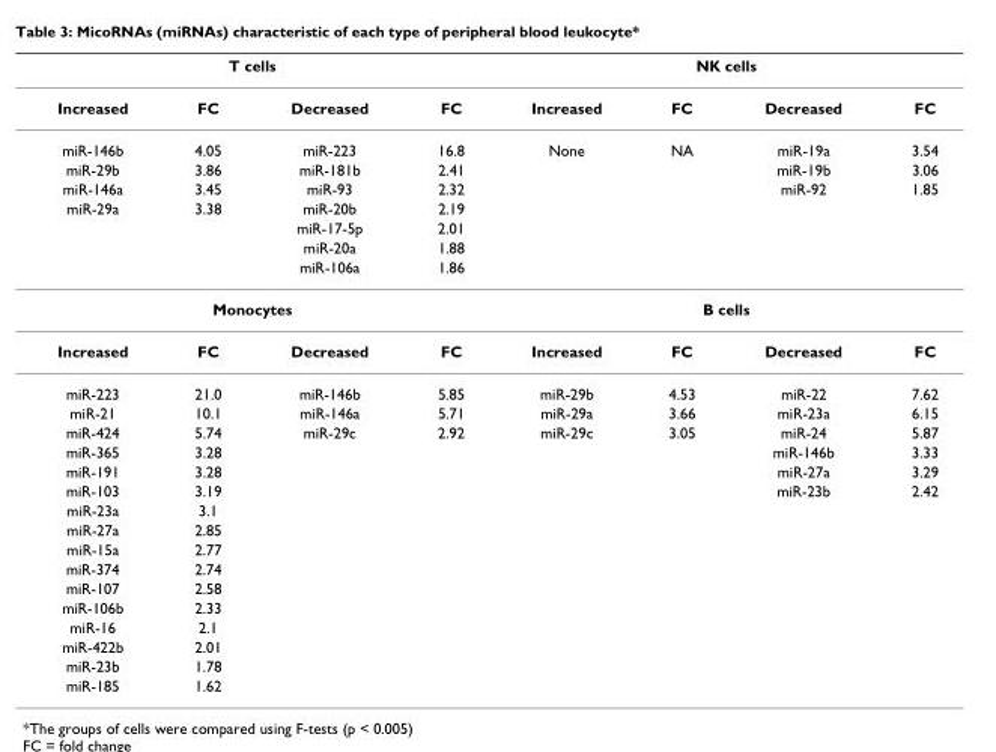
<table><thead><tr><td colspan="4">T cells</td><td colspan="4">NK cells</td></tr><tr><td>Increased</td><td>FC</td><td>Decreased</td><td>FC</td><td>Increased</td><td>FC</td><td>Decreased</td><td>FC</td></tr></thead><tbody><tr><td>miR-146b</td><td>4.05</td><td>miR-223</td><td>16.8</td><td>None</td><td>NA</td><td>miR-19a</td><td>3.54</td></tr><tr><td>miR-29b</td><td>3.86</td><td>miR-181b</td><td>2.41</td><td></td><td></td><td>miR-19b</td><td>3.06</td></tr><tr><td>miR-146a</td><td>3.45</td><td>miR-93</td><td>2.32</td><td></td><td></td><td>miR-92</td><td>1.85</td></tr><tr><td rowspan="4">miR-29a</td><td>3.38</td><td>miR-20b</td><td>2.19</td><td></td><td></td><td></td><td></td></tr><tr><td></td><td>miR-17-5p</td><td>2.01</td><td></td><td></td><td></td><td></td></tr><tr><td></td><td>miR-20a</td><td>1.88</td><td></td><td></td><td></td><td></td></tr><tr><td></td><td>miR-106a</td><td>1.86</td><td></td><td></td><td></td><td></td></tr><tr><td colspan="4">Monocytes</td><td colspan="4">B cells</td></tr><tr><td>Increased</td><td>FC</td><td>Decreased</td><td>FC</td><td>Increased</td><td>FC</td><td>Decreased</td><td>FC</td></tr><tr><td>miR-223</td><td>21.0</td><td>miR-146b</td><td>5.85</td><td>miR-29b</td><td>4.53</td><td>miR-22</td><td>7.62</td></tr><tr><td>miR-21</td><td>10.1</td><td>miR-146a</td><td>5.71</td><td>miR-29a</td><td>3.66</td><td>miR-23a</td><td>6.15</td></tr><tr><td>miR-424</td><td>5.74</td><td>miR-29c</td><td>2.92</td><td>miR-29c</td><td>3.05</td><td>miR-24</td><td>5.87</td></tr><tr><td>miR-365</td><td>3.28</td><td></td><td></td><td></td><td></td><td>miR-146b</td><td>3.33</td></tr><tr><td>miR-191</td><td>3.28</td><td></td><td></td><td></td><td></td><td>miR-27a</td><td>3.29</td></tr><tr><td>miR-103</td><td>3.19</td><td></td><td></td><td></td><td></td><td>miR-23b</td><td>2.42</td></tr><tr><td>miR-23a</td><td>3.1</td><td></td><td></td><td></td><td></td><td></td><td></td></tr><tr><td>miR-27a</td><td>2.85</td><td></td><td></td><td></td><td></td><td></td><td></td></tr><tr><td>miR-15a</td><td>2.77</td><td></td><td></td><td></td><td></td><td></td><td></td></tr><tr><td>miR-374</td><td>2.74</td><td></td><td></td><td></td><td></td><td></td><td></td></tr><tr><td>miR-107</td><td>2.58</td><td></td><td></td><td></td><td></td><td></td><td></td></tr><tr><td>miR-106b</td><td>2.33</td><td></td><td></td><td></td><td></td><td></td><td></td></tr><tr><td>miR-16</td><td>2.1</td><td></td><td></td><td></td><td></td><td></td><td></td></tr><tr><td>miR-422b</td><td>2.01</td><td></td><td></td><td></td><td></td><td></td><td></td></tr><tr><td>miR-23b</td><td>1.78</td><td></td><td></td><td></td><td></td><td></td><td></td></tr><tr><td>miR-185</td><td>1.62</td><td></td><td></td><td></td><td></td><td></td><td></td></tr></tbody></table>